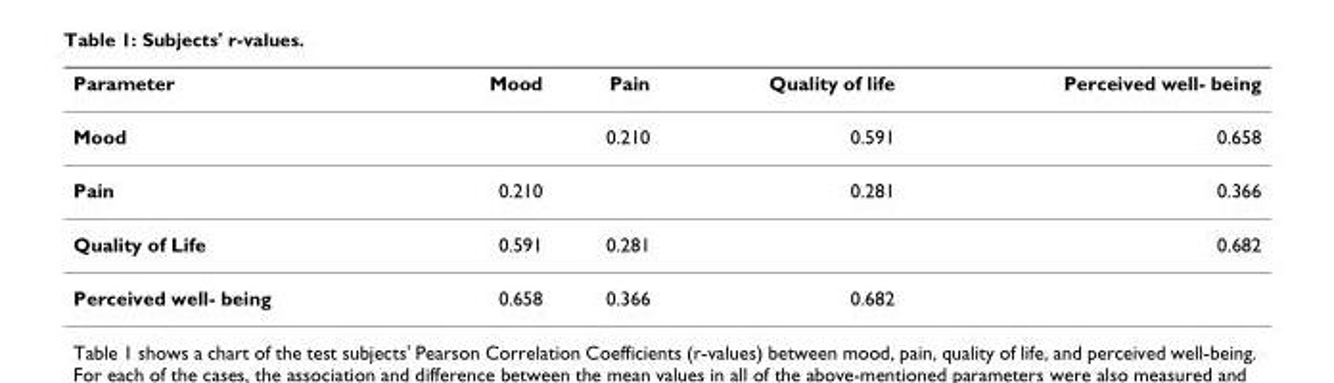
<table><thead><tr><td>Parameter</td><td>Mood</td><td>Pain</td><td>Quality of life</td><td>Perceived well- being</td></tr></thead><tbody><tr><td>Mood</td><td></td><td>0.210</td><td>0.591</td><td>0.658</td></tr><tr><td>Pain</td><td>0.210</td><td></td><td>0.281</td><td>0.366</td></tr><tr><td>Quality of Life</td><td>0.591</td><td>0.281</td><td></td><td>0.682</td></tr><tr><td>Perceived well- being</td><td>0.658</td><td>0.366</td><td>0.682</td><td></td></tr></tbody></table>